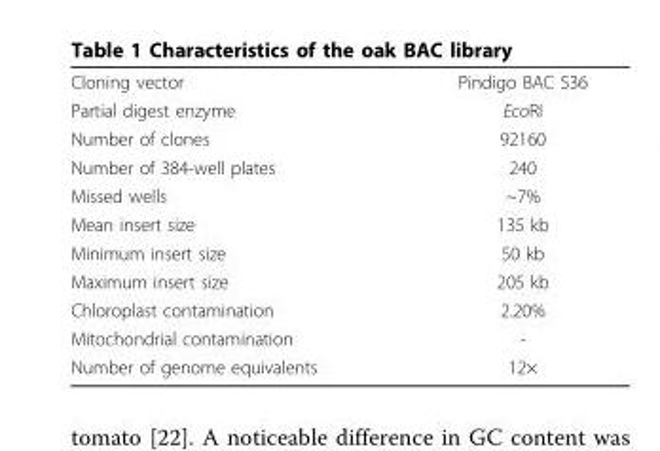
<table><tbody><tr><td>Cloning vector</td><td>Pindigo BAC 536</td></tr><tr><td>Partial digest enzyme</td><td>EcoRI</td></tr><tr><td>Number of clones</td><td>92160</td></tr><tr><td>Number of 384-well plates</td><td>240</td></tr><tr><td>Missed wells</td><td>~7%</td></tr><tr><td>Mean insert size</td><td>135 kb</td></tr><tr><td>Minimum insert size</td><td>50 kb</td></tr><tr><td>Maximum insert size</td><td>205 kb</td></tr><tr><td>Chloroplast contamination</td><td>2.20%</td></tr><tr><td>Mitochondrial contamination</td><td>-</td></tr><tr><td>Number of genome equivalents</td><td>12×</td></tr></tbody></table>